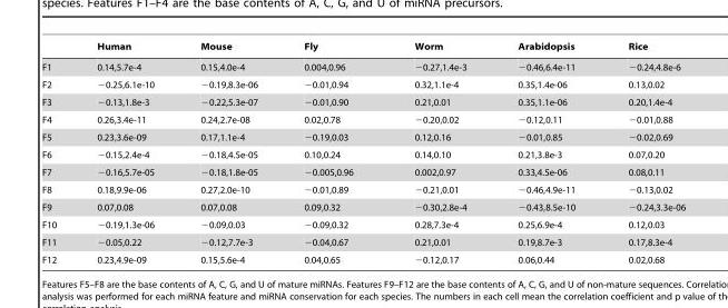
<table><thead><tr><td></td><td>Human</td><td>Mouse</td><td>Fly</td><td>Worm</td><td>Arabidopsis</td><td>Rice</td></tr></thead><tbody><tr><td>F1</td><td>0.14,5.7e-4</td><td>0.15,4.0e-4</td><td>0.004,0.96</td><td>−0.27,1.4e-3</td><td>−0.46,6.4e-11</td><td>−0.24,4.8e-6</td></tr><tr><td>F2</td><td>−0.25,6.1e-10</td><td>−0.19,8.3e-06</td><td>−0.01,0.94</td><td>0.32,1.1e-4</td><td>0.35,1.4e-06</td><td>0.13,0.02</td></tr><tr><td>F3</td><td>−0.13,1.8e-3</td><td>−0.22,5.3e-07</td><td>−0.01,0.90</td><td>0.21,0.01</td><td>0.35,1.1e-06</td><td>0.20,1.4e-4</td></tr><tr><td>F4</td><td>0.26,3.4e-11</td><td>0.24,2.7e-08</td><td>0.02,0.78</td><td>−0.20,0.02</td><td>−0.12,0.11</td><td>−0.01,0.88</td></tr><tr><td>F5</td><td>0.23,3.6e-09</td><td>0.17,1.1e-4</td><td>−0.19,0.03</td><td>0.12,0.16</td><td>−0.01,0.85</td><td>−0.02,0.69</td></tr><tr><td>F6</td><td>−0.15,2.4e-4</td><td>−0.18,4.5e-05</td><td>0.10,0.24</td><td>0.14,0.10</td><td>0.21,3.8e-3</td><td>0.07,0.20</td></tr><tr><td>F7</td><td>−0.16,5.7e-05</td><td>−0.18,1.8e-05</td><td>−0.005,0.96</td><td>0.002,0.97</td><td>0.33,4.5e-06</td><td>0.08,0.11</td></tr><tr><td>F8</td><td>0.18,9.9e-06</td><td>0.27,2.0e-10</td><td>−0.01,0.89</td><td>−0.21,0.01</td><td>−0.46,4.9e-11</td><td>−0.13,0.02</td></tr><tr><td>F9</td><td>0.07,0.08</td><td>0.07,0.08</td><td>0.09,0.32</td><td>−0.30,2.8e-4</td><td>−0.43,8.5e-10</td><td>−0.24,3.3e-06</td></tr><tr><td>F10</td><td>−0.19,1.3e-06</td><td>−0.09,0.03</td><td>−0.09,0.32</td><td>0.28,7.3e-4</td><td>0.25,6.9e-4</td><td>0.12,0.03</td></tr><tr><td>F11</td><td>−0.05,0.22</td><td>−0.12,7.7e-3</td><td>−0.04,0.67</td><td>0.21,0.01</td><td>0.19,8.7e-3</td><td>0.17,8.3e-4</td></tr><tr><td>F12</td><td>0.23,4.9e-09</td><td>0.15,5.6e-4</td><td>0.04,0.65</td><td>−0.12,0.17</td><td>0.06,0.44</td><td>0.02,0.68</td></tr></tbody></table>